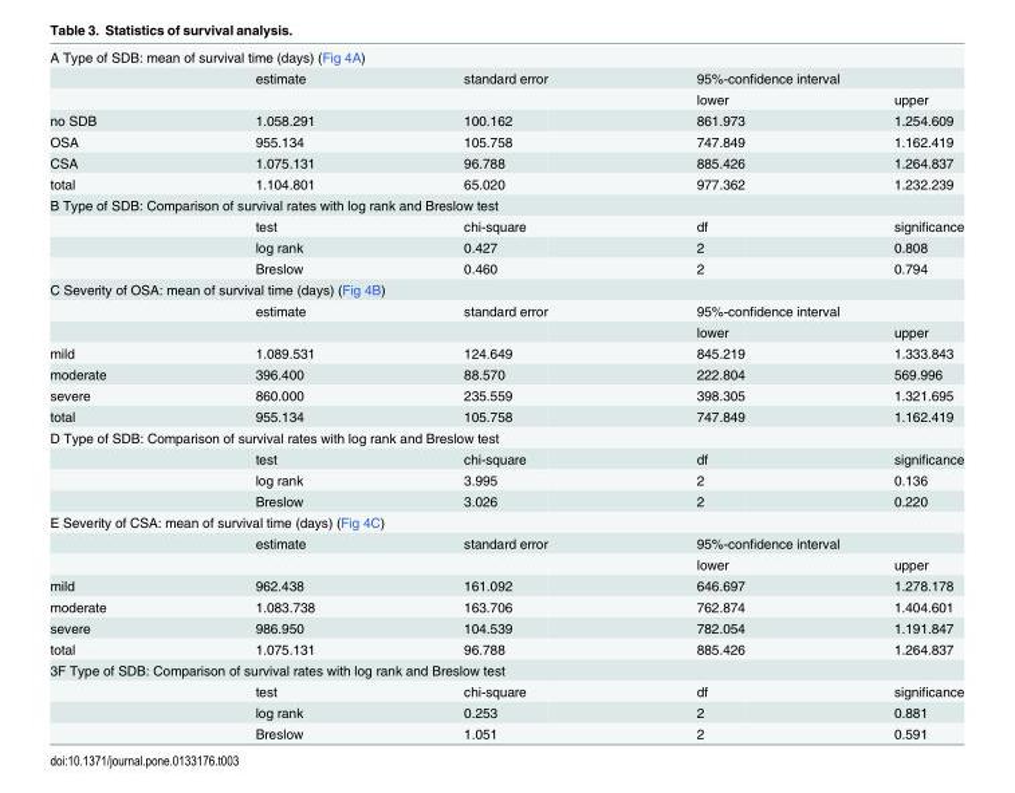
<table><tbody><tr><td colspan="5">A Type of SDB: mean of survival time (days) (Fig 4A)</td></tr><tr><td></td><td>estimate</td><td>standard error</td><td colspan="2">95%-confidence interval</td></tr><tr><td></td><td></td><td></td><td>lower</td><td>upper</td></tr><tr><td>no SDB</td><td>1.058.291</td><td>100.162</td><td>861.973</td><td>1.254.609</td></tr><tr><td>OSA</td><td>955.134</td><td>105.758</td><td>747.849</td><td>1.162.419</td></tr><tr><td>CSA</td><td>1.075.131</td><td>96.788</td><td>885.426</td><td>1.264.837</td></tr><tr><td>total</td><td>1.104.801</td><td>65.020</td><td>977.362</td><td>1.232.239</td></tr><tr><td colspan="5">B Type of SDB: Comparison of survival rates with log rank and Breslow test</td></tr><tr><td></td><td>test</td><td>chi-square</td><td>df</td><td>significance</td></tr><tr><td></td><td>log rank</td><td>0.427</td><td>2</td><td>0.808</td></tr><tr><td></td><td>Breslow</td><td>0.460</td><td>2</td><td>0.794</td></tr><tr><td colspan="5">C Severity of OSA: mean of survival time (days) (Fig 4B)</td></tr><tr><td></td><td>estimate</td><td>standard error</td><td colspan="2">95%-confidence interval</td></tr><tr><td></td><td></td><td></td><td>lower</td><td>upper</td></tr><tr><td>mild</td><td>1.089.531</td><td>124.649</td><td>845.219</td><td>1.333.843</td></tr><tr><td>moderate</td><td>396.400</td><td>88.570</td><td>222.804</td><td>569.996</td></tr><tr><td>severe</td><td>860.000</td><td>235.559</td><td>398.305</td><td>1.321.695</td></tr><tr><td>total</td><td>955.134</td><td>105.758</td><td>747.849</td><td>1.162.419</td></tr><tr><td colspan="5">D Type of SDB: Comparison of survival rates with log rank and Breslow test</td></tr><tr><td></td><td>test</td><td>chi-square</td><td>df</td><td>significance</td></tr><tr><td></td><td>log rank</td><td>3.995</td><td>2</td><td>0.136</td></tr><tr><td></td><td>Breslow</td><td>3.026</td><td>2</td><td>0.220</td></tr><tr><td colspan="5">E Severity of CSA: mean of survival time (days) (Fig 4C)</td></tr><tr><td></td><td>estimate</td><td>standard error</td><td colspan="2">95%-confidence interval</td></tr><tr><td></td><td></td><td></td><td>lower</td><td>upper</td></tr><tr><td>mild</td><td>962.438</td><td>161.092</td><td>646.697</td><td>1.278.178</td></tr><tr><td>moderate</td><td>1.083.738</td><td>163.706</td><td>762.874</td><td>1.404.601</td></tr><tr><td>severe</td><td>986.950</td><td>104.539</td><td>782.054</td><td>1.191.847</td></tr><tr><td>total</td><td>1.075.131</td><td>96.788</td><td>885.426</td><td>1.264.837</td></tr><tr><td colspan="5">3F Type of SDB: Comparison of survival rates with log rank and Breslow test</td></tr><tr><td></td><td>test</td><td>chi-square</td><td>df</td><td>significance</td></tr><tr><td></td><td>log rank</td><td>0.253</td><td>2</td><td>0.881</td></tr><tr><td></td><td>Breslow</td><td>1.051</td><td>2</td><td>0.591</td></tr></tbody></table>